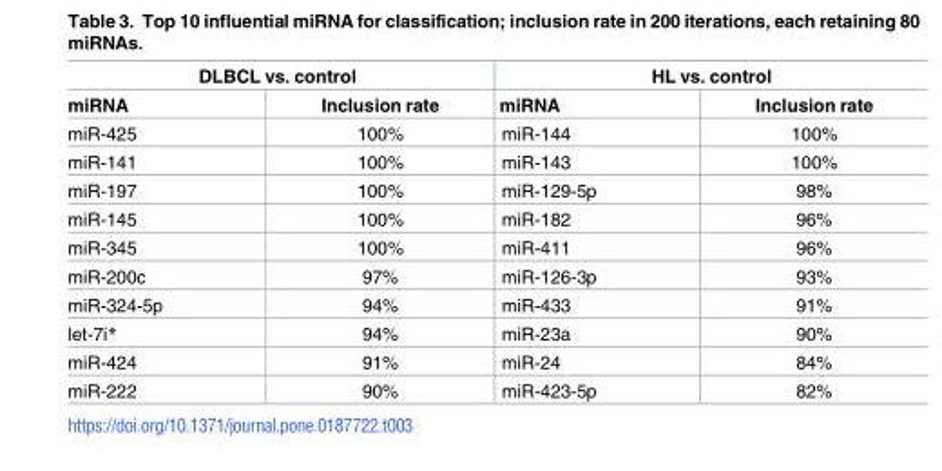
<table><thead><tr><td colspan="2">DLBCL vs. control</td><td colspan="2">HL vs. control</td></tr><tr><td>miRNA</td><td>Inclusion rate</td><td>miRNA</td><td>Inclusion rate</td></tr></thead><tbody><tr><td>miR-425</td><td>100%</td><td>miR-144</td><td>100%</td></tr><tr><td>miR-141</td><td>100%</td><td>miR-143</td><td>100%</td></tr><tr><td>miR-197</td><td>100%</td><td>miR-129-5p</td><td>98%</td></tr><tr><td>miR-145</td><td>100%</td><td>miR-182</td><td>96%</td></tr><tr><td>miR-345</td><td>100%</td><td>miR-411</td><td>96%</td></tr><tr><td>miR-200c</td><td>97%</td><td>miR-126-3p</td><td>93%</td></tr><tr><td>miR-324-5p</td><td>94%</td><td>miR-433</td><td>91%</td></tr><tr><td>let-7i*</td><td>94%</td><td>miR-23a</td><td>90%</td></tr><tr><td>miR-424</td><td>91%</td><td>miR-24</td><td>84%</td></tr><tr><td>miR-222</td><td>90%</td><td>miR-423-5p</td><td>82%</td></tr></tbody></table>